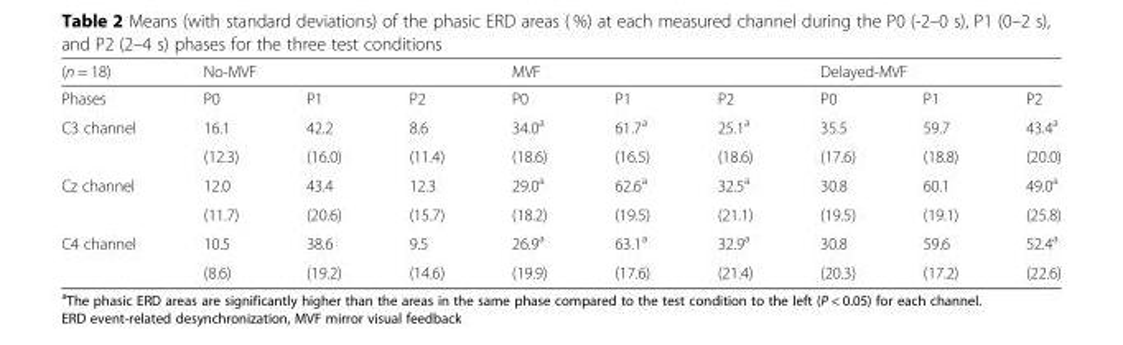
<table><thead><tr><td rowspan="2">(n = 18) Phases</td><td colspan="3">No-MVF</td><td colspan="3">MVF</td><td colspan="3">Delayed-MVF</td></tr><tr><td>P0</td><td>P1</td><td>P2</td><td>P0</td><td>P1</td><td>P2</td><td>P0</td><td>P1</td><td>P2</td></tr></thead><tbody><tr><td rowspan="2">C3 channel</td><td>16.1</td><td>42.2</td><td>8.6</td><td>34.0<sup>a</sup></td><td>61.7<sup>a</sup></td><td>25.1<sup>a</sup></td><td>35.5</td><td>59.7</td><td>43.4<sup>a</sup></td></tr><tr><td>(12.3)</td><td>(16.0)</td><td>(11.4)</td><td>(18.6)</td><td>(16.5)</td><td>(18.6)</td><td>(17.6)</td><td>(18.8)</td><td>(20.0)</td></tr><tr><td rowspan="2">Cz channel</td><td>12.0</td><td>43.4</td><td>12.3</td><td>29.0<sup>a</sup></td><td>62.6<sup>a</sup></td><td>32.5<sup>a</sup></td><td>30.8</td><td>60.1</td><td>49.0<sup>a</sup></td></tr><tr><td>(11.7)</td><td>(20.6)</td><td>(15.7)</td><td>(18.2)</td><td>(19.5)</td><td>(21.1)</td><td>(19.5)</td><td>(19.1)</td><td>(25.8)</td></tr><tr><td rowspan="2">C4 channel</td><td>10.5</td><td>38.6</td><td>9.5</td><td>26.9<sup>a</sup></td><td>63.1<sup>a</sup></td><td>32.9<sup>a</sup></td><td>30.8</td><td>59.6</td><td>52.4<sup>a</sup></td></tr><tr><td>(8.6)</td><td>(19.2)</td><td>(14.6)</td><td>(19.9)</td><td>(17.6)</td><td>(21.4)</td><td>(20.3)</td><td>(17.2)</td><td>(22.6)</td></tr></tbody></table>